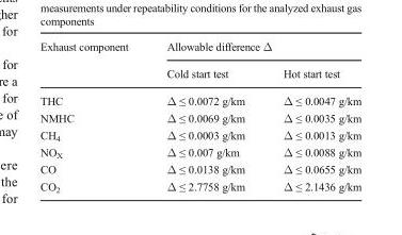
<table><thead><tr><td rowspan="2">Exhaust component</td><td colspan="2">Allowable difference Δ</td></tr><tr><td>Cold start test</td><td>Hot start test</td></tr></thead><tbody><tr><td>THC</td><td>Δ ≤ 0.0072 g/km</td><td>Δ ≤ 0.0047 g/km</td></tr><tr><td>NMHC</td><td>Δ ≤ 0.0069 g/km</td><td>Δ ≤ 0.0035 g/km</td></tr><tr><td>CH<sub>4</sub></td><td>Δ ≤ 0.0003 g/km</td><td>Δ ≤ 0.0013 g/km</td></tr><tr><td>NO<sub>X</sub></td><td>Δ ≤ 0.007 g/km</td><td>Δ ≤ 0.0088 g/km</td></tr><tr><td>CO</td><td>Δ ≤ 0.0138 g/km</td><td>Δ ≤ 0.0655 g/km</td></tr><tr><td>CO<sub>2</sub></td><td>Δ ≤ 2.7758 g/km</td><td>Δ ≤ 2.1436 g/km</td></tr></tbody></table>